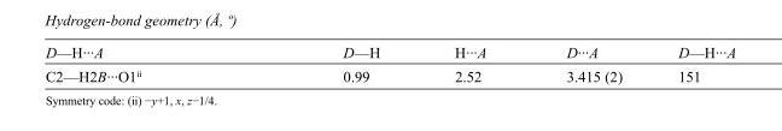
<table><tbody><tr><td>D—H···A</td><td>D—H</td><td>H···A</td><td>D···A</td><td>D—H···A</td></tr><tr><td>C2—H2B···O1<sup>ii</sup></td><td>0.99</td><td>2.52</td><td>3.415 (2)</td><td>151</td></tr></tbody></table>